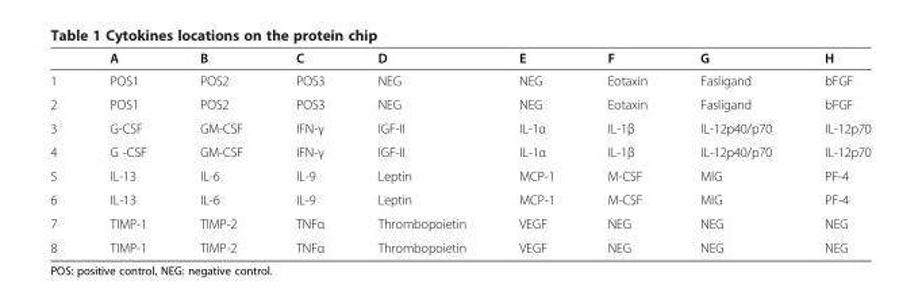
<table><thead><tr><td></td><td>A</td><td>B</td><td>C</td><td>D</td><td>E</td><td>F</td><td>G</td><td>H</td></tr></thead><tbody><tr><td>1</td><td>POS1</td><td>POS2</td><td>POS3</td><td>NEG</td><td>NEG</td><td>Eotaxin</td><td>Fasligand</td><td>bFGF</td></tr><tr><td>2</td><td>POS1</td><td>POS2</td><td>POS3</td><td>NEG</td><td>NEG</td><td>Eotaxin</td><td>Fasligand</td><td>bFGF</td></tr><tr><td>3</td><td>G-CSF</td><td>GM-CSF</td><td>IFN-γ</td><td>IGF-II</td><td>IL-1α</td><td>IL-1β</td><td>IL-12p40/p70</td><td>IL-12p70</td></tr><tr><td>4</td><td>G -CSF</td><td>GM-CSF</td><td>IFN-γ</td><td>IGF-II</td><td>IL-1α</td><td>IL-1β</td><td>IL-12p40/p70</td><td>IL-12p70</td></tr><tr><td>5</td><td>IL-13</td><td>IL-6</td><td>IL-9</td><td>Leptin</td><td>MCP-1</td><td>M-CSF</td><td>MIG</td><td>PF-4</td></tr><tr><td>6</td><td>IL-13</td><td>IL-6</td><td>IL-9</td><td>Leptin</td><td>MCP-1</td><td>M-CSF</td><td>MIG</td><td>PF-4</td></tr><tr><td>7</td><td>TIMP-1</td><td>TIMP-2</td><td>TNFα</td><td>Thrombopoietin</td><td>VEGF</td><td>NEG</td><td>NEG</td><td>NEG</td></tr><tr><td>8</td><td>TIMP-1</td><td>TIMP-2</td><td>TNFα</td><td>Thrombopoietin</td><td>VEGF</td><td>NEG</td><td>NEG</td><td>NEG</td></tr></tbody></table>